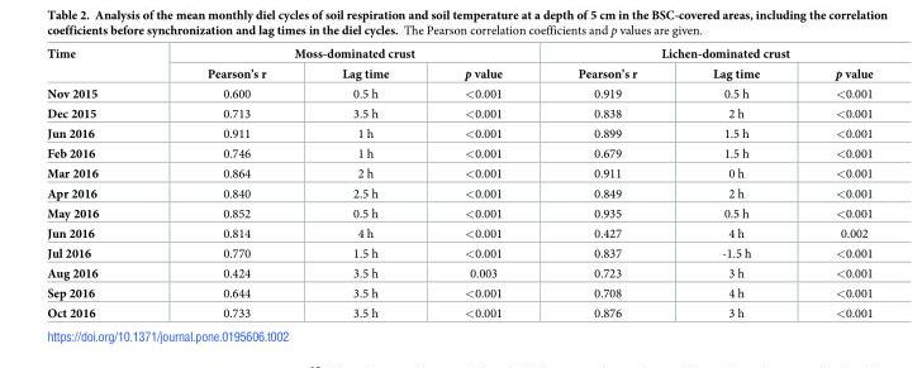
<table><thead><tr><td rowspan="2">Time</td><td colspan="3">Moss-dominated crust</td><td colspan="3">Lichen-dominated crust</td></tr><tr><td>Pearson’s r</td><td>Lag time</td><td>p value</td><td>Pearson’s r</td><td>Lag time</td><td>p value</td></tr></thead><tbody><tr><td>Nov 2015</td><td>0.600</td><td>0.5 h</td><td>&lt;0.001</td><td>0.919</td><td>0.5 h</td><td>&lt;0.001</td></tr><tr><td>Dec 2015</td><td>0.713</td><td>3.5 h</td><td>&lt;0.001</td><td>0.838</td><td>2 h</td><td>&lt;0.001</td></tr><tr><td>Jun 2016</td><td>0.911</td><td>1 h</td><td>&lt;0.001</td><td>0.899</td><td>1.5 h</td><td>&lt;0.001</td></tr><tr><td>Feb 2016</td><td>0.746</td><td>1 h</td><td>&lt;0.001</td><td>0.679</td><td>1.5 h</td><td>&lt;0.001</td></tr><tr><td>Mar 2016</td><td>0.864</td><td>2 h</td><td>&lt;0.001</td><td>0.911</td><td>0 h</td><td>&lt;0.001</td></tr><tr><td>Apr 2016</td><td>0.840</td><td>2.5 h</td><td>&lt;0.001</td><td>0.849</td><td>2 h</td><td>&lt;0.001</td></tr><tr><td>May 2016</td><td>0.852</td><td>0.5 h</td><td>&lt;0.001</td><td>0.935</td><td>0.5 h</td><td>&lt;0.001</td></tr><tr><td>Jun 2016</td><td>0.814</td><td>4 h</td><td>&lt;0.001</td><td>0.427</td><td>4 h</td><td>0.002</td></tr><tr><td>Jul 2016</td><td>0.770</td><td>1.5 h</td><td>&lt;0.001</td><td>0.837</td><td>-1.5 h</td><td>&lt;0.001</td></tr><tr><td>Aug 2016</td><td>0.424</td><td>3.5 h</td><td>0.003</td><td>0.723</td><td>3 h</td><td>&lt;0.001</td></tr><tr><td>Sep 2016</td><td>0.644</td><td>3.5 h</td><td>&lt;0.001</td><td>0.708</td><td>4 h</td><td>&lt;0.001</td></tr><tr><td>Oct 2016</td><td>0.733</td><td>3.5 h</td><td>&lt;0.001</td><td>0.876</td><td>3 h</td><td>&lt;0.001</td></tr></tbody></table>